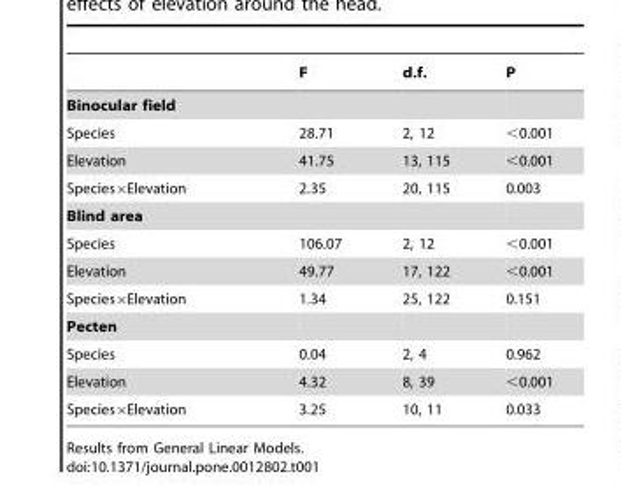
<table><thead><tr><td></td><td>F</td><td>d.f.</td><td>P</td></tr></thead><tbody><tr><td colspan="4">Binocular field</td></tr><tr><td>Species</td><td>28.71</td><td>2, 12</td><td>&lt;0.001</td></tr><tr><td>Elevation</td><td>41.75</td><td>13, 115</td><td>&lt;0.001</td></tr><tr><td>Species×Elevation</td><td>2.35</td><td>20, 115</td><td>0.003</td></tr><tr><td colspan="4">Blind area</td></tr><tr><td>Species</td><td>106.07</td><td>2, 12</td><td>&lt;0.001</td></tr><tr><td>Elevation</td><td>49.77</td><td>17, 122</td><td>&lt;0.001</td></tr><tr><td>Species×Elevation</td><td>1.34</td><td>25, 122</td><td>0.151</td></tr><tr><td colspan="4">Pecten</td></tr><tr><td>Species</td><td>0.04</td><td>2, 4</td><td>0.962</td></tr><tr><td>Elevation</td><td>4.32</td><td>8, 39</td><td>&lt;0.001</td></tr><tr><td>Species×Elevation</td><td>3.25</td><td>10, 11</td><td>0.033</td></tr></tbody></table>